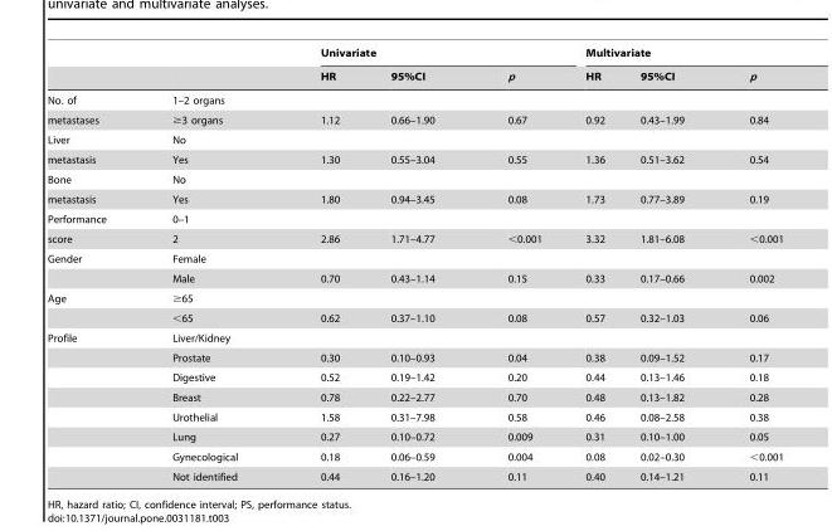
<table><thead><tr><td rowspan="2"></td><td rowspan="2"></td><td colspan="3">Univariate</td><td colspan="3">Multivariate</td></tr><tr><td>HR</td><td>95%CI</td><td>p</td><td>HR</td><td>95%CI</td><td>p</td></tr></thead><tbody><tr><td>No. of</td><td>1–2 organs</td><td></td><td></td><td></td><td></td><td></td><td></td></tr><tr><td>metastases</td><td>≥3 organs</td><td>1.12</td><td>0.66–1.90</td><td>0.67</td><td>0.92</td><td>0.43–1.99</td><td>0.84</td></tr><tr><td>Liver</td><td>No</td><td></td><td></td><td></td><td></td><td></td><td></td></tr><tr><td>metastasis</td><td>Yes</td><td>1.30</td><td>0.55–3.04</td><td>0.55</td><td>1.36</td><td>0.51–3.62</td><td>0.54</td></tr><tr><td>Bone</td><td>No</td><td></td><td></td><td></td><td></td><td></td><td></td></tr><tr><td>metastasis</td><td>Yes</td><td>1.80</td><td>0.94–3.45</td><td>0.08</td><td>1.73</td><td>0.77–3.89</td><td>0.19</td></tr><tr><td>Performance</td><td>0–1</td><td></td><td></td><td></td><td></td><td></td><td></td></tr><tr><td>score</td><td>2</td><td>2.86</td><td>1.71–4.77</td><td>&lt;0.001</td><td>3.32</td><td>1.81–6.08</td><td>&lt;0.001</td></tr><tr><td rowspan="2">Gender</td><td>Female</td><td></td><td></td><td></td><td></td><td></td><td></td></tr><tr><td>Male</td><td>0.70</td><td>0.43–1.14</td><td>0.15</td><td>0.33</td><td>0.17–0.66</td><td>0.002</td></tr><tr><td rowspan="2">Age</td><td>≥65</td><td></td><td></td><td></td><td></td><td></td><td></td></tr><tr><td>&lt;65</td><td>0.62</td><td>0.37–1.10</td><td>0.08</td><td>0.57</td><td>0.32–1.03</td><td>0.06</td></tr><tr><td rowspan="8">Profile</td><td>Liver/Kidney</td><td></td><td></td><td></td><td></td><td></td><td></td></tr><tr><td>Prostate</td><td>0.30</td><td>0.10–0.93</td><td>0.04</td><td>0.38</td><td>0.09–1.52</td><td>0.17</td></tr><tr><td>Digestive</td><td>0.52</td><td>0.19–1.42</td><td>0.20</td><td>0.44</td><td>0.13–1.46</td><td>0.18</td></tr><tr><td>Breast</td><td>0.78</td><td>0.22–2.77</td><td>0.70</td><td>0.48</td><td>0.13–1.82</td><td>0.28</td></tr><tr><td>Urothelial</td><td>1.58</td><td>0.31–7.98</td><td>0.58</td><td>0.46</td><td>0.08–2.58</td><td>0.38</td></tr><tr><td>Lung</td><td>0.27</td><td>0.10–0.72</td><td>0.009</td><td>0.31</td><td>0.10–1.00</td><td>0.05</td></tr><tr><td>Gynecological</td><td>0.18</td><td>0.06–0.59</td><td>0.004</td><td>0.08</td><td>0.02–0.30</td><td>&lt;0.001</td></tr><tr><td>Not identified</td><td>0.44</td><td>0.16–1.20</td><td>0.11</td><td>0.40</td><td>0.14–1.21</td><td>0.11</td></tr></tbody></table>